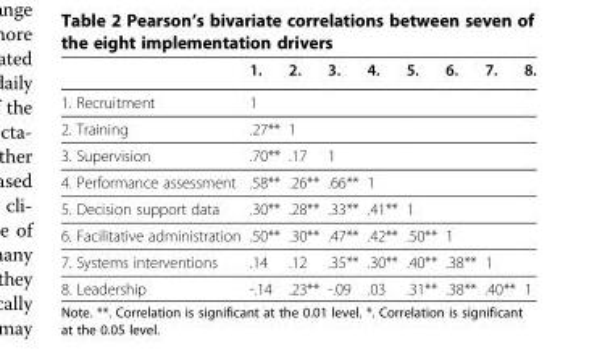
<table><thead><tr><td></td><td>1.</td><td>2.</td><td>3.</td><td>4.</td><td>5.</td><td>6.</td><td>7.</td><td>8.</td></tr></thead><tbody><tr><td>1. Recruitment</td><td>1</td><td></td><td></td><td></td><td></td><td></td><td></td><td></td></tr><tr><td>2. Training</td><td>.27**</td><td>1</td><td></td><td></td><td></td><td></td><td></td><td></td></tr><tr><td>3. Supervision</td><td>.70**</td><td>.17</td><td>1</td><td></td><td></td><td></td><td></td><td></td></tr><tr><td>4. Performance assessment</td><td>.58**</td><td>.26**</td><td>.66**</td><td>1</td><td></td><td></td><td></td><td></td></tr><tr><td>5. Decision support data</td><td>.30**</td><td>.28**</td><td>.33**</td><td>.41**</td><td>1</td><td></td><td></td><td></td></tr><tr><td>6. Facilitative administration</td><td>.50**</td><td>.30**</td><td>.47**</td><td>.42**</td><td>.50**</td><td>1</td><td></td><td></td></tr><tr><td>7. Systems interventions</td><td>.14</td><td>.12</td><td>.35**</td><td>.30**</td><td>.40**</td><td>.38**</td><td>1</td><td></td></tr><tr><td>8. Leadership</td><td>-.14</td><td>.23**</td><td>-.09</td><td>.03</td><td>.31**</td><td>.38**</td><td>.40**</td><td>1</td></tr></tbody></table>